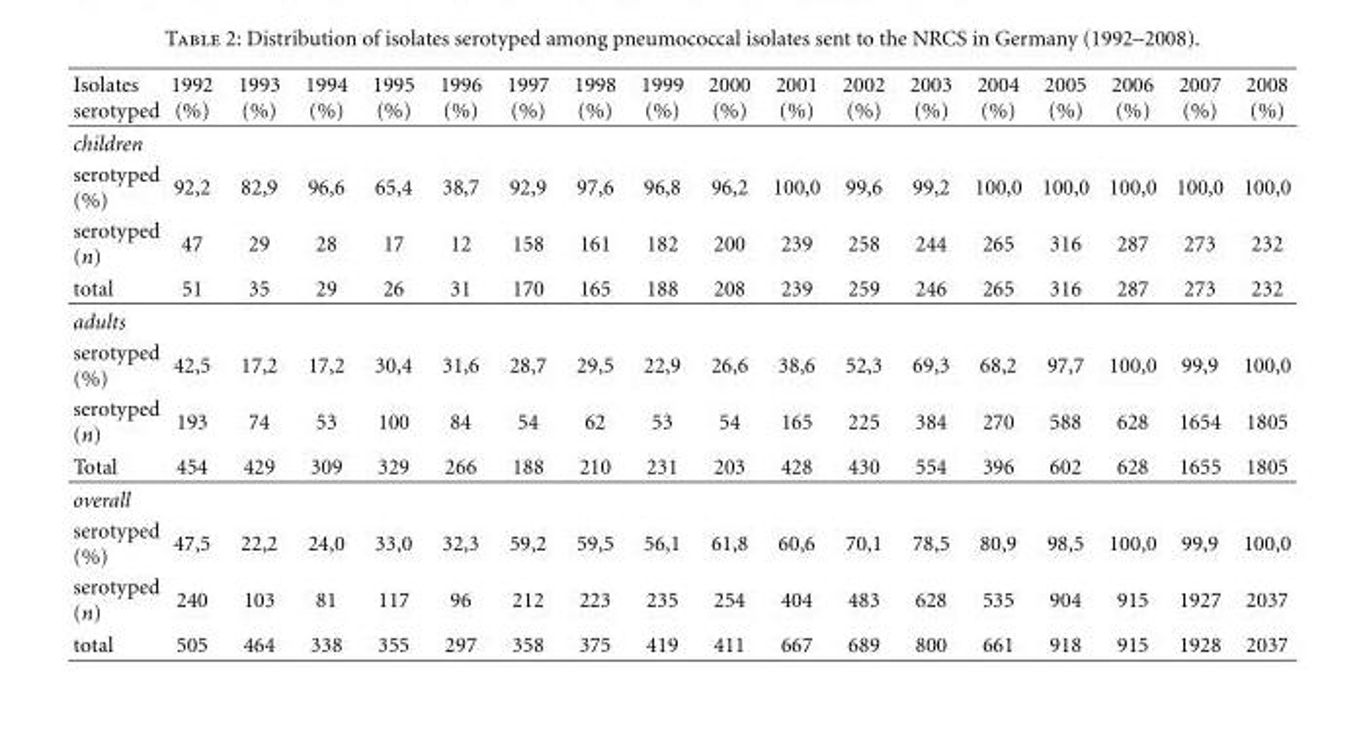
<table><thead><tr><td>Isolates serotyped</td><td>1992 (%)</td><td>1993 (%)</td><td>1994 (%)</td><td>1995 (%)</td><td>1996 (%)</td><td>1997 (%)</td><td>1998 (%)</td><td>1999 (%)</td><td>2000 (%)</td><td>2001 (%)</td><td>2002 (%)</td><td>2003 (%)</td><td>2004 (%)</td><td>2005 (%)</td><td>2006 (%)</td><td>2007 (%)</td><td>2008 (%)</td></tr></thead><tbody><tr><td colspan="18">children</td></tr><tr><td>serotyped (%)</td><td>92,2</td><td>82,9</td><td>96,6</td><td>65,4</td><td>38,7</td><td>92,9</td><td>97,6</td><td>96,8</td><td>96,2</td><td>100,0</td><td>99,6</td><td>99,2</td><td>100,0</td><td>100,0</td><td>100,0</td><td>100,0</td><td>100,0</td></tr><tr><td>serotyped (n)</td><td>47</td><td>29</td><td>28</td><td>17</td><td>12</td><td>158</td><td>161</td><td>182</td><td>200</td><td>239</td><td>258</td><td>244</td><td>265</td><td>316</td><td>287</td><td>273</td><td>232</td></tr><tr><td>total</td><td>51</td><td>35</td><td>29</td><td>26</td><td>31</td><td>170</td><td>165</td><td>188</td><td>208</td><td>239</td><td>259</td><td>246</td><td>265</td><td>316</td><td>287</td><td>273</td><td>232</td></tr><tr><td colspan="18">adults</td></tr><tr><td>serotyped (%)</td><td>42,5</td><td>17,2</td><td>17,2</td><td>30,4</td><td>31,6</td><td>28,7</td><td>29,5</td><td>22,9</td><td>26,6</td><td>38,6</td><td>52,3</td><td>69,3</td><td>68,2</td><td>97,7</td><td>100,0</td><td>99,9</td><td>100,0</td></tr><tr><td>serotyped (n)</td><td>193</td><td>74</td><td>53</td><td>100</td><td>84</td><td>54</td><td>62</td><td>53</td><td>54</td><td>165</td><td>225</td><td>384</td><td>270</td><td>588</td><td>628</td><td>1654</td><td>1805</td></tr><tr><td>Total</td><td>454</td><td>429</td><td>309</td><td>329</td><td>266</td><td>188</td><td>210</td><td>231</td><td>203</td><td>428</td><td>430</td><td>554</td><td>396</td><td>602</td><td>628</td><td>1655</td><td>1805</td></tr><tr><td colspan="18">overall</td></tr><tr><td>serotyped (%)</td><td>47,5</td><td>22,2</td><td>24,0</td><td>33,0</td><td>32,3</td><td>59,2</td><td>59,5</td><td>56,1</td><td>61,8</td><td>60,6</td><td>70,1</td><td>78,5</td><td>80,9</td><td>98,5</td><td>100,0</td><td>99,9</td><td>100,0</td></tr><tr><td>serotyped (n)</td><td>240</td><td>103</td><td>81</td><td>117</td><td>96</td><td>212</td><td>223</td><td>235</td><td>254</td><td>404</td><td>483</td><td>628</td><td>535</td><td>904</td><td>915</td><td>1927</td><td>2037</td></tr><tr><td>total</td><td>505</td><td>464</td><td>338</td><td>355</td><td>297</td><td>358</td><td>375</td><td>419</td><td>411</td><td>667</td><td>689</td><td>800</td><td>661</td><td>918</td><td>915</td><td>1928</td><td>2037</td></tr></tbody></table>